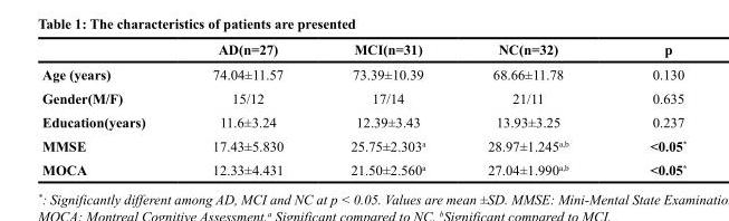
<table><thead><tr><td></td><td>AD(n=27)</td><td>MCI(n=31)</td><td>NC(n=32)</td><td>p</td></tr></thead><tbody><tr><td>Age (years)</td><td>74.04±11.57</td><td>73.39±10.39</td><td>68.66±11.78</td><td>0.130</td></tr><tr><td>Gender(M/F)</td><td>15/12</td><td>17/14</td><td>21/11</td><td>0.635</td></tr><tr><td>Education(years)</td><td>11.6±3.24</td><td>12.39±3.43</td><td>13.93±3.25</td><td>0.237</td></tr><tr><td>MMSE</td><td>17.43±5.830</td><td>25.75±2.303<sup>a</sup></td><td>28.97±1.245<sup>a,b</sup></td><td>&lt;0.05*</td></tr><tr><td>MOCA</td><td>12.33±4.431</td><td>21.50±2.560<sup>a</sup></td><td>27.04±1.990<sup>a,b</sup></td><td>&lt;0.05*</td></tr></tbody></table>